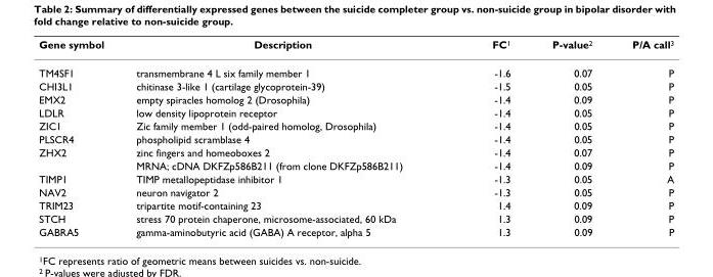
<table><thead><tr><td>Gene symbol</td><td>Description</td><td>FC<sup>1</sup></td><td>P-value<sup>2</sup></td><td>P/A call<sup>3</sup></td></tr></thead><tbody><tr><td>TM4SF1</td><td>transmembrane 4 L six family member 1</td><td>-1.6</td><td>0.07</td><td>P</td></tr><tr><td>CHI3L1</td><td>chitinase 3-like 1 (cartilage glycoprotein-39)</td><td>-1.5</td><td>0.05</td><td>P</td></tr><tr><td>EMX2</td><td>empty spiracles homolog 2 (Drosophila)</td><td>-1.4</td><td>0.09</td><td>P</td></tr><tr><td>LDLR</td><td>low density lipoprotein receptor</td><td>-1.4</td><td>0.05</td><td>P</td></tr><tr><td>ZIC1</td><td>Zic family member 1 (odd-paired homolog, Drosophila)</td><td>-1.4</td><td>0.05</td><td>P</td></tr><tr><td>PLSCR4</td><td>phospholipid scramblase 4</td><td>-1.4</td><td>0.05</td><td>P</td></tr><tr><td rowspan="2">ZHX2</td><td>zinc fingers and homeoboxes 2</td><td>-1.4</td><td>0.07</td><td>P</td></tr><tr><td>MRNA; cDNA DKFZp586B211 (from clone DKFZp586B211)</td><td>-1.4</td><td>0.09</td><td>P</td></tr><tr><td>TIMP1</td><td>TIMP metallopeptidase inhibitor 1</td><td>-1.3</td><td>0.05</td><td>A</td></tr><tr><td>NAV2</td><td>neuron navigator 2</td><td>-1.3</td><td>0.05</td><td>P</td></tr><tr><td>TRIM23</td><td>tripartite motif-containing 23</td><td>1.4</td><td>0.09</td><td>P</td></tr><tr><td>STCH</td><td>stress 70 protein chaperone, microsome-associated, 60 kDa</td><td>1.3</td><td>0.09</td><td>P</td></tr><tr><td>GABRA5</td><td>gamma-aminobutyric acid (GABA) A receptor, alpha 5</td><td>1.3</td><td>0.09</td><td>P</td></tr></tbody></table>